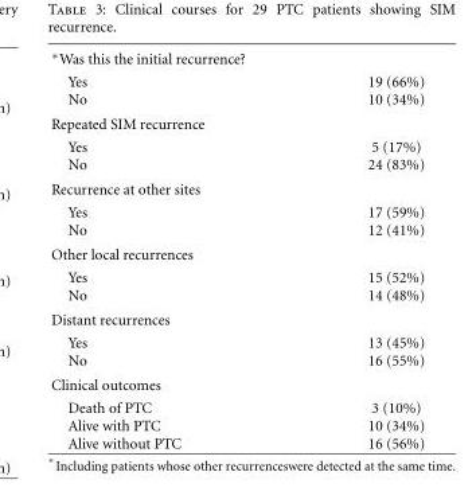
<table><tbody><tr><td colspan="2">∗Was this the initial recurrence?</td></tr><tr><td>Yes No</td><td>19 (66%) 10 (34%)</td></tr><tr><td colspan="2">Repeated SIM recurrence</td></tr><tr><td>Yes No</td><td>5 (17%) 24 (83%)</td></tr><tr><td colspan="2">Recurrence at other sites</td></tr><tr><td>Yes No</td><td>17 (59%) 12 (41%)</td></tr><tr><td colspan="2">Other local recurrences</td></tr><tr><td>Yes No</td><td>15 (52%) 14 (48%)</td></tr><tr><td colspan="2">Distant recurrences</td></tr><tr><td>Yes No</td><td>13 (45%) 16 (55%)</td></tr><tr><td colspan="2">Clinical outcomes</td></tr><tr><td>Death of PTC Alive with PTC Alive without PTC</td><td>3 (10%) 10 (34%) 16 (56%)</td></tr></tbody></table>